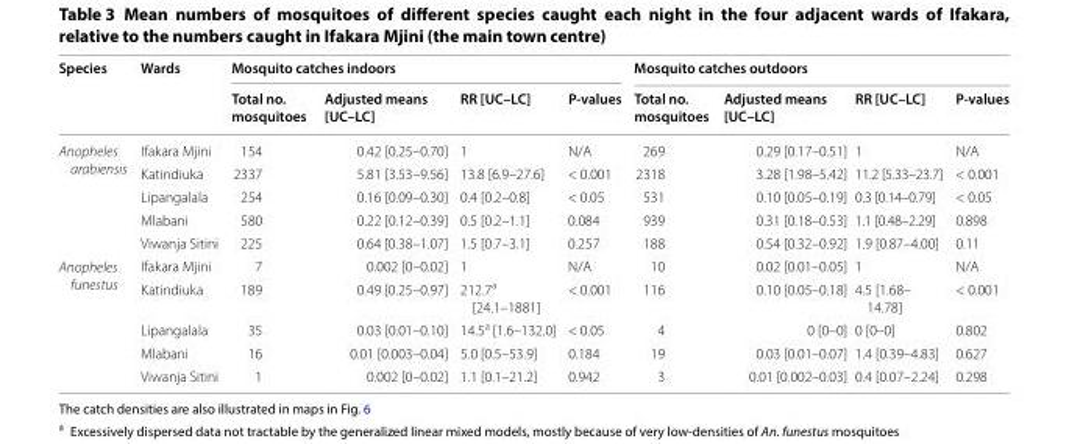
<table><thead><tr><td rowspan="2">Species</td><td rowspan="2">Wards</td><td colspan="4">Mosquito catches indoors</td><td colspan="4">Mosquito catches outdoors</td></tr><tr><td>Total no. mosquitoes</td><td>Adjusted means [UC–LC]</td><td>RR [UC–LC]</td><td>P-values</td><td>Total no. mosquitoes</td><td>Adjusted means [UC–LC]</td><td>RR [UC–LC]</td><td>P-values</td></tr></thead><tbody><tr><td rowspan="5">Anopheles arabiensis</td><td>Ifakara Mjini</td><td>154</td><td>0.42 [0.25–0.70]</td><td>1</td><td>N/A</td><td>269</td><td>0.29 [0.17–0.51]</td><td>1</td><td>N/A</td></tr><tr><td>Katindiuka</td><td>2337</td><td>5.81 [3.53–9.56]</td><td>13.8 [6.9–27.6]</td><td>&lt; 0.001</td><td>2318</td><td>3.28 [1.98–5.42]</td><td>11.2 [5.33–23.7]</td><td>&lt; 0.001</td></tr><tr><td>Lipangalala</td><td>254</td><td>0.16 [0.09–0.30]</td><td>0.4 [0.2–0.8]</td><td>&lt; 0.05</td><td>531</td><td>0.10 [0.05–0.19]</td><td>0.3 [0.14–0.79]</td><td>&lt; 0.05</td></tr><tr><td>Mlabani</td><td>580</td><td>0.22 [0.12–0.39]</td><td>0.5 [0.2–1.1]</td><td>0.084</td><td>939</td><td>0.31 [0.18–0.53]</td><td>1.1 [0.48–2.29]</td><td>0.898</td></tr><tr><td>Viwanja Sitini</td><td>225</td><td>0.64 [0.38–1.07]</td><td>1.5 [0.7–3.1]</td><td>0.257</td><td>188</td><td>0.54 [0.32–0.92]</td><td>1.9 [0.87–4.00]</td><td>0.11</td></tr><tr><td rowspan="5">Anopheles funestus</td><td>Ifakara Mjini</td><td>7</td><td>0.002 [0–0.02]</td><td>1</td><td>N/A</td><td>10</td><td>0.02 [0.01–0.05]</td><td>1</td><td>N/A</td></tr><tr><td>Katindiuka</td><td>189</td><td>0.49 [0.25–0.97]</td><td>212.7<sup>a</sup> [24.1–1881]</td><td>&lt; 0.001</td><td>116</td><td>0.10 [0.05–0.18]</td><td>4.5 [1.68– 14.78]</td><td>&lt; 0.001</td></tr><tr><td>Lipangalala</td><td>35</td><td>0.03 [0.01–0.10]</td><td>14.5<sup>a</sup> [1.6–132.0]</td><td>&lt; 0.05</td><td>4</td><td>0 [0–0]</td><td>0 [0–0]</td><td>0.802</td></tr><tr><td>Mlabani</td><td>16</td><td>0.01 [0.003–0.04]</td><td>5.0 [0.5–53.9]</td><td>0.184</td><td>19</td><td>0.03 [0.01–0.07]</td><td>1.4 [0.39–4.83]</td><td>0.627</td></tr><tr><td>Viwanja Sitini</td><td>1</td><td>0.002 [0–0.02]</td><td>1.1 [0.1–21.2]</td><td>0.942</td><td>3</td><td>0.01 [0.002–0.03]</td><td>0.4 [0.07–2.24]</td><td>0.298</td></tr></tbody></table>